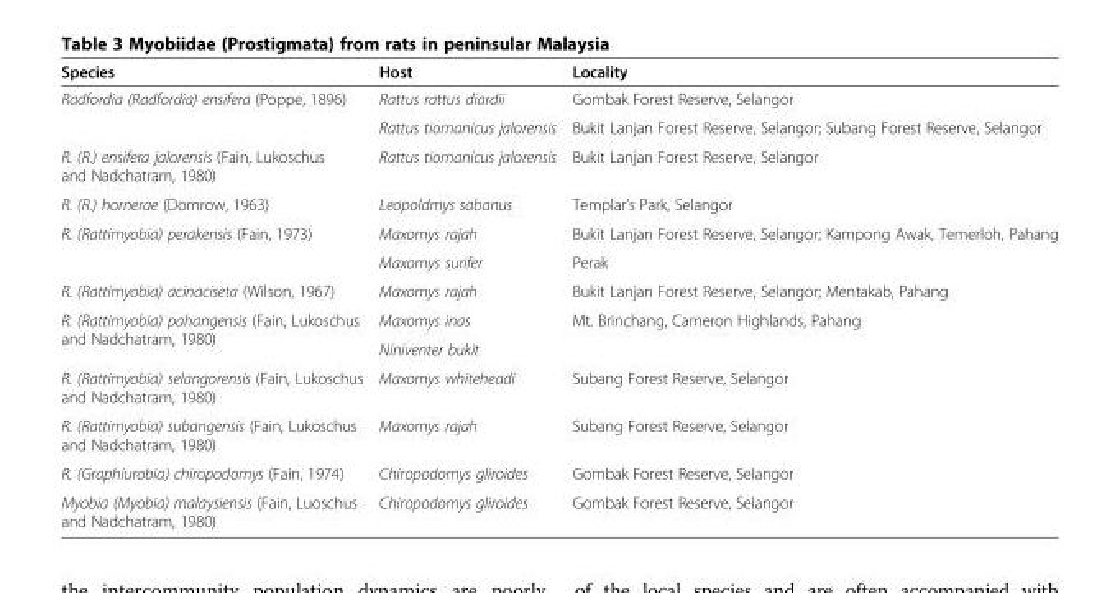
<table><thead><tr><td>Species</td><td>Host</td><td>Locality</td></tr></thead><tbody><tr><td rowspan="2">Radfordia (Radfordia) ensifera (Poppe, 1896)</td><td>Rattus rattus diardii</td><td>Gombak Forest Reserve, Selangor</td></tr><tr><td>Rattus tiomanicus jalorensis</td><td>Bukit Lanjan Forest Reserve, Selangor; Subang Forest Reserve, Selangor</td></tr><tr><td>R. (R.) ensifera jalorensis (Fain, Lukoschus and Nadchatram, 1980)</td><td>Rattus tiomanicus jalorensis</td><td>Bukit Lanjan Forest Reserve, Selangor</td></tr><tr><td>R. (R.) hornerae (Domrow, 1963)</td><td>Leopoldmys sabanus</td><td>Templar’s Park, Selangor</td></tr><tr><td rowspan="2">R. (Rattimyobia) perakensis (Fain, 1973)</td><td>Maxomys rajah</td><td>Bukit Lanjan Forest Reserve, Selangor; Kampong Awak, Temerloh, Pahang</td></tr><tr><td>Maxomys surifer</td><td>Perak</td></tr><tr><td>R. (Rattimyobia) acinaciseta (Wilson, 1967)</td><td>Maxomys rajah</td><td>Bukit Lanjan Forest Reserve, Selangor; Mentakab, Pahang</td></tr><tr><td rowspan="2">R. (Rattimyobia) pahangensis (Fain, Lukoschus and Nadchatram, 1980)</td><td>Maxomys inas</td><td rowspan="2">Mt. Brinchang, Cameron Highlands, Pahang</td></tr><tr><td>Niniventer bukit</td></tr><tr><td>R. (Rattimyobia) selangorensis (Fain, Lukoschus and Nadchatram, 1980)</td><td>Maxomys whiteheadi</td><td>Subang Forest Reserve, Selangor</td></tr><tr><td>R. (Rattimyobia) subangensis (Fain, Lukoschus and Nadchatram, 1980)</td><td>Maxomys rajah</td><td>Subang Forest Reserve, Selangor</td></tr><tr><td>R. (Graphiurobia) chiropodomys (Fain, 1974)</td><td>Chiropodomys gliroides</td><td>Gombak Forest Reserve, Selangor</td></tr><tr><td>Myobia (Myobia) malaysiensis (Fain, Luoschus and Nadchatram, 1980)</td><td>Chiropodomys gliroides</td><td>Gombak Forest Reserve, Selangor</td></tr></tbody></table>